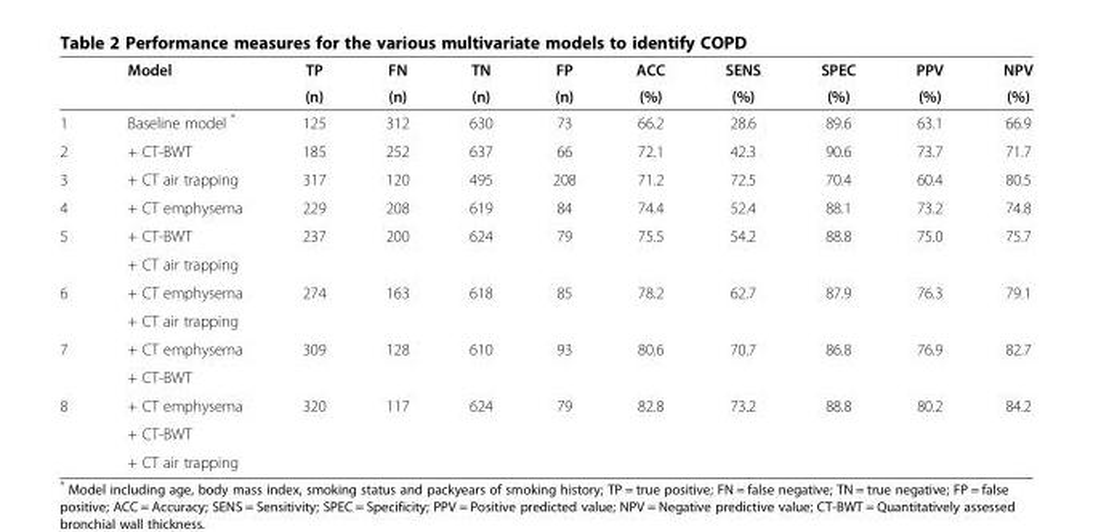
<table><thead><tr><td rowspan="2"></td><td rowspan="2">Model</td><td rowspan="2">TP (n)</td><td rowspan="2">FN (n)</td><td rowspan="2">TN (n)</td><td rowspan="2">FP (n)</td><td rowspan="2">ACC (%)</td><td rowspan="2">SENS (%)</td><td rowspan="2">SPEC (%)</td><td rowspan="2">PPV (%)</td><td rowspan="2">NPV (%)</td></tr><tr></tr></thead><tbody><tr><td>1</td><td>Baseline model *</td><td>125</td><td>312</td><td>630</td><td>73</td><td>66.2</td><td>28.6</td><td>89.6</td><td>63.1</td><td>66.9</td></tr><tr><td>2</td><td>+ CT-BWT</td><td>185</td><td>252</td><td>637</td><td>66</td><td>72.1</td><td>42.3</td><td>90.6</td><td>73.7</td><td>71.7</td></tr><tr><td>3</td><td>+ CT air trapping</td><td>317</td><td>120</td><td>495</td><td>208</td><td>71.2</td><td>72.5</td><td>70.4</td><td>60.4</td><td>80.5</td></tr><tr><td>4</td><td>+ CT emphysema</td><td>229</td><td>208</td><td>619</td><td>84</td><td>74.4</td><td>52.4</td><td>88.1</td><td>73.2</td><td>74.8</td></tr><tr><td rowspan="2">5</td><td>+ CT-BWT</td><td rowspan="2">237</td><td rowspan="2">200</td><td rowspan="2">624</td><td rowspan="2">79</td><td rowspan="2">75.5</td><td rowspan="2">54.2</td><td rowspan="2">88.8</td><td rowspan="2">75.0</td><td rowspan="2">75.7</td></tr><tr><td>+ CT air trapping</td></tr><tr><td rowspan="2">6</td><td>+ CT emphysema</td><td rowspan="2">274</td><td rowspan="2">163</td><td rowspan="2">618</td><td rowspan="2">85</td><td rowspan="2">78.2</td><td rowspan="2">62.7</td><td rowspan="2">87.9</td><td rowspan="2">76.3</td><td rowspan="2">79.1</td></tr><tr><td>+ CT air trapping</td></tr><tr><td rowspan="2">7</td><td>+ CT emphysema</td><td rowspan="2">309</td><td rowspan="2">128</td><td rowspan="2">610</td><td rowspan="2">93</td><td rowspan="2">80.6</td><td rowspan="2">70.7</td><td rowspan="2">86.8</td><td rowspan="2">76.9</td><td rowspan="2">82.7</td></tr><tr><td>+ CT-BWT</td></tr><tr><td rowspan="3">8</td><td>+ CT emphysema</td><td>320</td><td>117</td><td>624</td><td>79</td><td>82.8</td><td>73.2</td><td>88.8</td><td>80.2</td><td>84.2</td></tr><tr><td>+ CT-BWT</td><td></td><td></td><td></td><td></td><td></td><td></td><td></td><td></td><td></td></tr><tr><td>+ CT air trapping</td><td></td><td></td><td></td><td></td><td></td><td></td><td></td><td></td><td></td></tr></tbody></table>